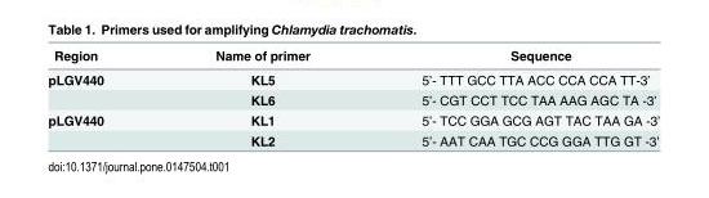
<table><thead><tr><td>Region</td><td>Name of primer</td><td>Sequence</td></tr></thead><tbody><tr><td rowspan="2">pLGV440</td><td>KL5</td><td>5’- TTT GCC TTA ACC CCA CCA TT-3’</td></tr><tr><td>KL6</td><td>5’- CGT CCT TCC TAA AAG AGC TA -3’</td></tr><tr><td rowspan="2">pLGV440</td><td>KL1</td><td>5’- TCC GGA GCG AGT TAC TAA GA -3’</td></tr><tr><td>KL2</td><td>5’- AAT CAA TGC CCG GGA TTG GT -3’</td></tr></tbody></table>